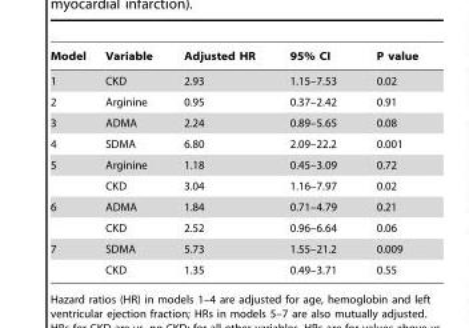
<table><thead><tr><td>Model</td><td>Variable</td><td>Adjusted HR</td><td>95% CI</td><td>P value</td></tr></thead><tbody><tr><td>1</td><td>CKD</td><td>2.93</td><td>1.15–7.53</td><td>0.02</td></tr><tr><td>2</td><td>Arginine</td><td>0.95</td><td>0.37–2.42</td><td>0.91</td></tr><tr><td>3</td><td>ADMA</td><td>2.24</td><td>0.89–5.65</td><td>0.08</td></tr><tr><td>4</td><td>SDMA</td><td>6.80</td><td>2.09–22.2</td><td>0.001</td></tr><tr><td rowspan="2">5</td><td>Arginine</td><td>1.18</td><td>0.45–3.09</td><td>0.72</td></tr><tr><td>CKD</td><td>3.04</td><td>1.16–7.97</td><td>0.02</td></tr><tr><td rowspan="2">6</td><td>ADMA</td><td>1.84</td><td>0.71–4.79</td><td>0.21</td></tr><tr><td>CKD</td><td>2.52</td><td>0.96–6.64</td><td>0.06</td></tr><tr><td rowspan="2">7</td><td>SDMA</td><td>5.73</td><td>1.55–21.2</td><td>0.009</td></tr><tr><td>CKD</td><td>1.35</td><td>0.49–3.71</td><td>0.55</td></tr></tbody></table>